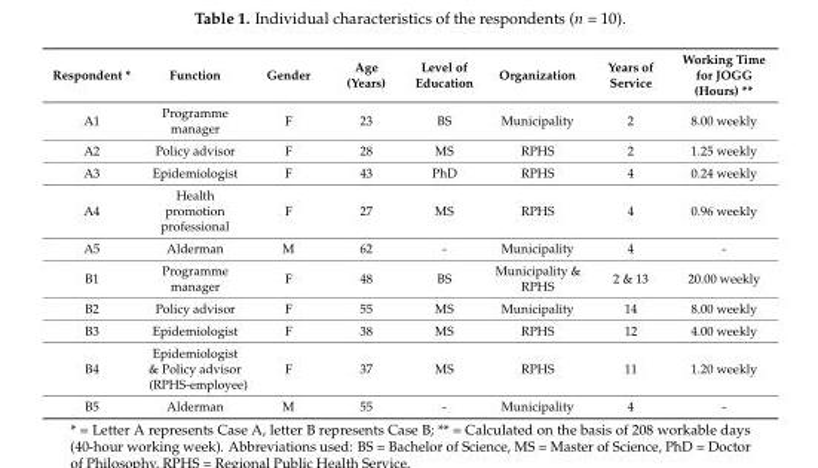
<table><thead><tr><td>Respondent *</td><td>Function</td><td>Gender</td><td>Age (Years)</td><td>Level of Education</td><td>Organization</td><td>Years of Service</td><td>Working Time for JOGG (Hours) **</td></tr></thead><tbody><tr><td>A1</td><td>Programme manager</td><td>F</td><td>23</td><td>BS</td><td>Municipality</td><td>2</td><td>8.00 weekly</td></tr><tr><td>A2</td><td>Policy advisor</td><td>F</td><td>28</td><td>MS</td><td>RPHS</td><td>2</td><td>1.25 weekly</td></tr><tr><td>A3</td><td>Epidemiologist</td><td>F</td><td>43</td><td>PhD</td><td>RPHS</td><td>4</td><td>0.24 weekly</td></tr><tr><td>A4</td><td>Health promotion professional</td><td>F</td><td>27</td><td>MS</td><td>RPHS</td><td>4</td><td>0.96 weekly</td></tr><tr><td>A5</td><td>Alderman</td><td>M</td><td>62</td><td>-</td><td>Municipality</td><td>4</td><td>-</td></tr><tr><td>B1</td><td>Programme manager</td><td>F</td><td>48</td><td>BS</td><td>Municipality &amp; RPHS</td><td>2 &amp; 13</td><td>20.00 weekly</td></tr><tr><td>B2</td><td>Policy advisor</td><td>F</td><td>55</td><td>MS</td><td>Municipality</td><td>14</td><td>8.00 weekly</td></tr><tr><td>B3</td><td>Epidemiologist</td><td>F</td><td>38</td><td>MS</td><td>RPHS</td><td>12</td><td>4.00 weekly</td></tr><tr><td>B4</td><td>Epidemiologist &amp; Policy advisor (RPHS-employee)</td><td>F</td><td>37</td><td>MS</td><td>RPHS</td><td>11</td><td>1.20 weekly</td></tr><tr><td>B5</td><td>Alderman</td><td>M</td><td>55</td><td>-</td><td>Municipality</td><td>4</td><td>-</td></tr></tbody></table>